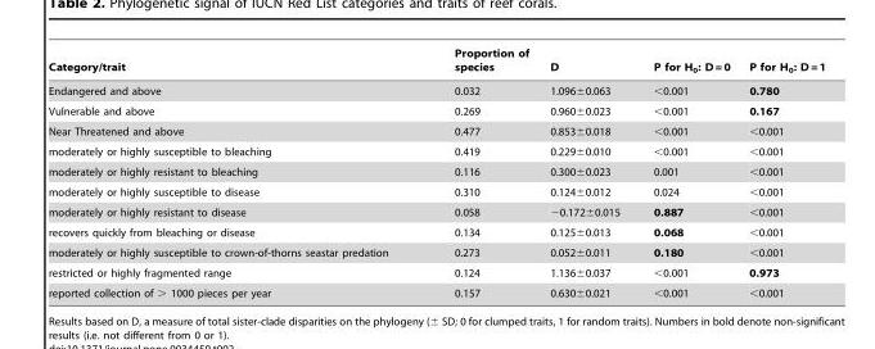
<table><thead><tr><td>Category/trait</td><td>Proportion of species</td><td>D</td><td>P for H<sub>0</sub>: D = 0</td><td>P for H<sub>0</sub>: D = 1</td></tr></thead><tbody><tr><td>Endangered and above</td><td>0.032</td><td>1.096±0.063</td><td>&lt;0.001</td><td>0.780</td></tr><tr><td>Vulnerable and above</td><td>0.269</td><td>0.960±0.023</td><td>&lt;0.001</td><td>0.167</td></tr><tr><td>Near Threatened and above</td><td>0.477</td><td>0.853±0.018</td><td>&lt;0.001</td><td>&lt;0.001</td></tr><tr><td>moderately or highly susceptible to bleaching</td><td>0.419</td><td>0.229±0.010</td><td>&lt;0.001</td><td>&lt;0.001</td></tr><tr><td>moderately or highly resistant to bleaching</td><td>0.116</td><td>0.300±0.023</td><td>0.001</td><td>&lt;0.001</td></tr><tr><td>moderately or highly susceptible to disease</td><td>0.310</td><td>0.124±0.012</td><td>0.024</td><td>&lt;0.001</td></tr><tr><td>moderately or highly resistant to disease</td><td>0.058</td><td>−0.172±0.015</td><td>0.887</td><td>&lt;0.001</td></tr><tr><td>recovers quickly from bleaching or disease</td><td>0.134</td><td>0.125±0.013</td><td>0.068</td><td>&lt;0.001</td></tr><tr><td>moderately or highly susceptible to crown-of-thorns seastar predation</td><td>0.273</td><td>0.052±0.011</td><td>0.180</td><td>&lt;0.001</td></tr><tr><td>restricted or highly fragmented range</td><td>0.124</td><td>1.136±0.037</td><td>&lt;0.001</td><td>0.973</td></tr><tr><td>reported collection of &gt; 1000 pieces per year</td><td>0.157</td><td>0.630±0.021</td><td>&lt;0.001</td><td>&lt;0.001</td></tr></tbody></table>